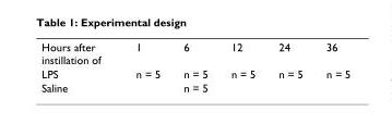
<table><tbody><tr><td>Hours after instillation of</td><td>1</td><td>6</td><td>12</td><td>24</td><td>36</td></tr><tr><td>LPS</td><td>n = 5</td><td>n = 5</td><td>n = 5</td><td>n = 5</td><td>n = 5</td></tr><tr><td>Saline</td><td></td><td>n = 5</td><td></td><td></td><td></td></tr></tbody></table>